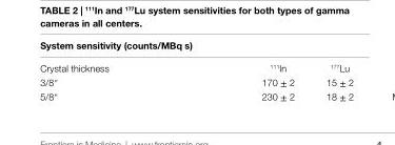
<table><thead><tr><td colspan="3">System sensitivity (counts/MBq s)</td></tr><tr><td>Crystal thickness</td><td><sup>111</sup>In</td><td><sup>177</sup>Lu</td></tr></thead><tbody><tr><td>3/8″</td><td>170 ± 2</td><td>15 ± 2</td></tr><tr><td>5/8″</td><td>230 ± 2</td><td>18 ± 2</td></tr></tbody></table>